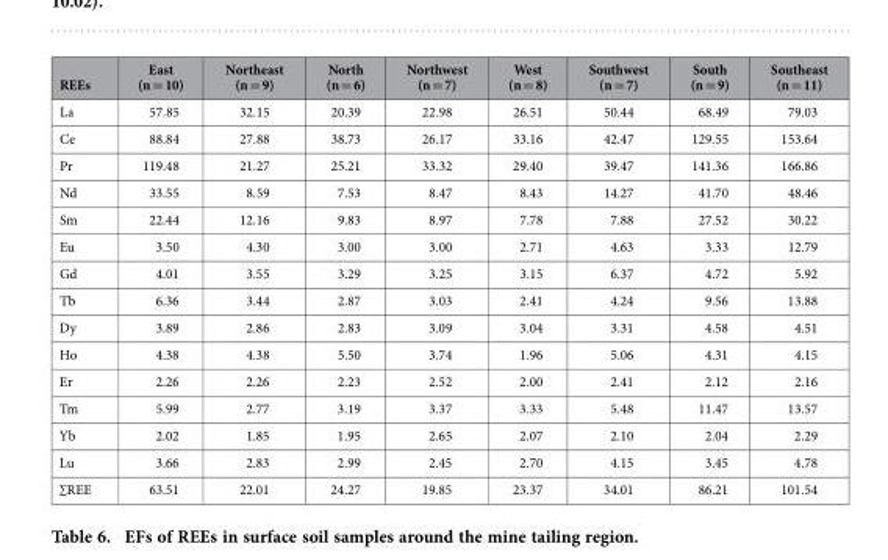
<table><thead><tr><td>REEs</td><td>East (n = 10)</td><td>Northeast (n = 9)</td><td>North (n = 6)</td><td>Northwest (n = 7)</td><td>West (n = 8)</td><td>Southwest (n = 7)</td><td>South (n = 9)</td><td>Southeast (n = 11)</td></tr></thead><tbody><tr><td>La</td><td>57.85</td><td>32.15</td><td>20.39</td><td>22.98</td><td>26.51</td><td>50.44</td><td>68.49</td><td>79.03</td></tr><tr><td>Ce</td><td>88.84</td><td>27.88</td><td>38.73</td><td>26.17</td><td>33.16</td><td>42.47</td><td>129.55</td><td>153.64</td></tr><tr><td>Pr</td><td>119.48</td><td>21.27</td><td>25.21</td><td>33.32</td><td>29.40</td><td>39.47</td><td>141.36</td><td>166.86</td></tr><tr><td>Nd</td><td>33.55</td><td>8.59</td><td>7.53</td><td>8.47</td><td>8.43</td><td>14.27</td><td>41.70</td><td>48.46</td></tr><tr><td>Sm</td><td>22.44</td><td>12.16</td><td>9.83</td><td>8.97</td><td>7.78</td><td>7.88</td><td>27.52</td><td>30.22</td></tr><tr><td>Eu</td><td>3.50</td><td>4.30</td><td>3.00</td><td>3.00</td><td>2.71</td><td>4.63</td><td>3.33</td><td>12.79</td></tr><tr><td>Gd</td><td>4.01</td><td>3.55</td><td>3.29</td><td>3.25</td><td>3.15</td><td>6.37</td><td>4.72</td><td>5.92</td></tr><tr><td>Tb</td><td>6.36</td><td>3.44</td><td>2.87</td><td>3.03</td><td>2.41</td><td>4.24</td><td>9.56</td><td>13.88</td></tr><tr><td>Dy</td><td>3.89</td><td>2.86</td><td>2.83</td><td>3.09</td><td>3.04</td><td>3.31</td><td>4.58</td><td>4.51</td></tr><tr><td>Ho</td><td>4.38</td><td>4.38</td><td>5.50</td><td>3.74</td><td>1.96</td><td>5.06</td><td>4.31</td><td>4.15</td></tr><tr><td>Er</td><td>2.26</td><td>2.26</td><td>2.23</td><td>2.52</td><td>2.00</td><td>2.41</td><td>2.12</td><td>2.16</td></tr><tr><td>Tm</td><td>5.99</td><td>2.77</td><td>3.19</td><td>3.37</td><td>3.33</td><td>5.48</td><td>11.47</td><td>13.57</td></tr><tr><td>Yb</td><td>2.02</td><td>1.85</td><td>1.95</td><td>2.65</td><td>2.07</td><td>2.10</td><td>2.04</td><td>2.29</td></tr><tr><td>Lu</td><td>3.66</td><td>2.83</td><td>2.99</td><td>2.45</td><td>2.70</td><td>4.15</td><td>3.45</td><td>4.78</td></tr><tr><td>∑REE</td><td>63.51</td><td>22.01</td><td>24.27</td><td>19.85</td><td>23.37</td><td>34.01</td><td>86.21</td><td>101.54</td></tr></tbody></table>